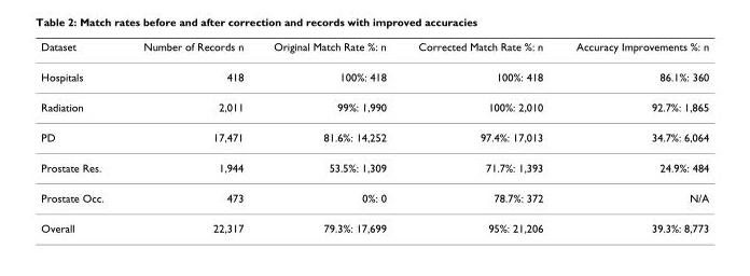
<table><thead><tr><td>Dataset</td><td>Number of Records n</td><td>Original Match Rate %: n</td><td>Corrected Match Rate %: n</td><td>Accuracy Improvements %: n</td></tr></thead><tbody><tr><td>Hospitals</td><td>418</td><td>100%: 418</td><td>100%: 418</td><td>86.1%: 360</td></tr><tr><td>Radiation</td><td>2,011</td><td>99%: 1,990</td><td>100%: 2,010</td><td>92.7%: 1,865</td></tr><tr><td>PD</td><td>17,471</td><td>81.6%: 14,252</td><td>97.4%: 17,013</td><td>34.7%: 6,064</td></tr><tr><td>Prostate Res.</td><td>1,944</td><td>53.5%: 1,309</td><td>71.7%: 1,393</td><td>24.9%: 484</td></tr><tr><td>Prostate Occ.</td><td>473</td><td>0%: 0</td><td>78.7%: 372</td><td>N/A</td></tr><tr><td>Overall</td><td>22,317</td><td>79.3%: 17,699</td><td>95%: 21,206</td><td>39.3%: 8,773</td></tr></tbody></table>